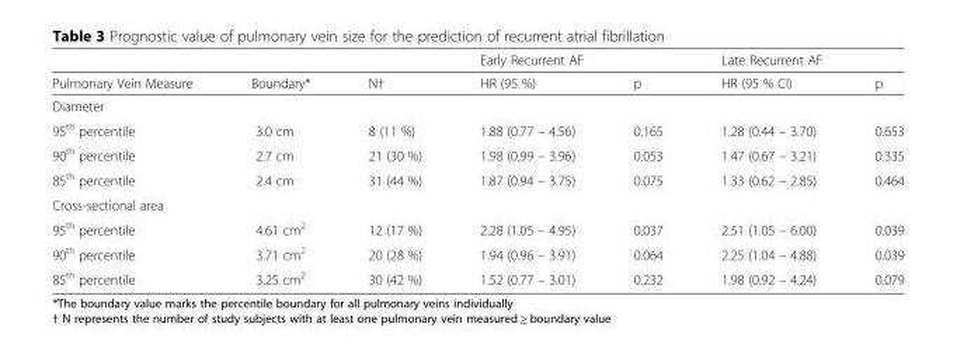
<table><thead><tr><td rowspan="2">Pulmonary Vein Measure</td><td rowspan="2">Boundary*</td><td rowspan="2">N†</td><td colspan="2">Early Recurrent AF</td><td colspan="2">Late Recurrent AF</td></tr><tr><td>HR (95 %)</td><td>p</td><td>HR (95 % CI)</td><td>p</td></tr></thead><tbody><tr><td colspan="7">Diameter</td></tr><tr><td>95<sup>th</sup> percentile</td><td>3.0 cm</td><td>8 (11 %)</td><td>1.88 (0.77 – 4.56)</td><td>0.165</td><td>1.28 (0.44 – 3.70)</td><td>0.653</td></tr><tr><td>90<sup>th</sup> percentile</td><td>2.7 cm</td><td>21 (30 %)</td><td>1.98 (0.99 – 3.96)</td><td>0.053</td><td>1.47 (0.67 – 3.21)</td><td>0.335</td></tr><tr><td>85<sup>th</sup> percentile</td><td>2.4 cm</td><td>31 (44 %)</td><td>1.87 (0.94 – 3.75)</td><td>0.075</td><td>1.33 (0.62 – 2.85)</td><td>0.464</td></tr><tr><td colspan="7">Cross-sectional area</td></tr><tr><td>95<sup>th</sup> percentile</td><td>4.61 cm<sup>2</sup></td><td>12 (17 %)</td><td>2.28 (1.05 – 4.95)</td><td>0.037</td><td>2.51 (1.05 – 6.00)</td><td>0.039</td></tr><tr><td>90<sup>th</sup> percentile</td><td>3.71 cm<sup>2</sup></td><td>20 (28 %)</td><td>1.94 (0.96 – 3.91)</td><td>0.064</td><td>2.25 (1.04 – 4.88)</td><td>0.039</td></tr><tr><td>85<sup>th</sup> percentile</td><td>3.25 cm<sup>2</sup></td><td>30 (42 %)</td><td>1.52 (0.77 – 3.01)</td><td>0.232</td><td>1.98 (0.92 – 4.24)</td><td>0.079</td></tr></tbody></table>